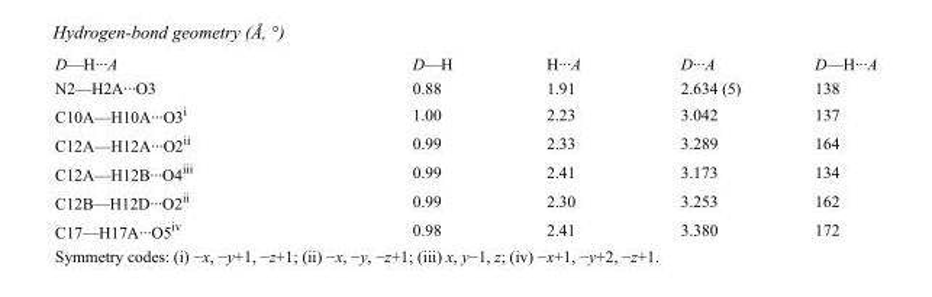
<table><tbody><tr><td>D—H···A</td><td>D—H</td><td>H···A</td><td>D···A</td><td>D—H···A</td></tr><tr><td>N2—H2A···O3</td><td>0.88</td><td>1.91</td><td>2.634 (5)</td><td>138</td></tr><tr><td>C10A—H10A···O3<sup>i</sup></td><td>1.00</td><td>2.23</td><td>3.042</td><td>137</td></tr><tr><td>C12A—H12A···O2<sup>ii</sup></td><td>0.99</td><td>2.33</td><td>3.289</td><td>164</td></tr><tr><td>C12A—H12B···O4<sup>iii</sup></td><td>0.99</td><td>2.41</td><td>3.173</td><td>134</td></tr><tr><td>C12B—H12D···O2<sup>ii</sup></td><td>0.99</td><td>2.30</td><td>3.253</td><td>162</td></tr><tr><td>C17—H17A···O5<sup>iv</sup></td><td>0.98</td><td>2.41</td><td>3.380</td><td>172</td></tr></tbody></table>